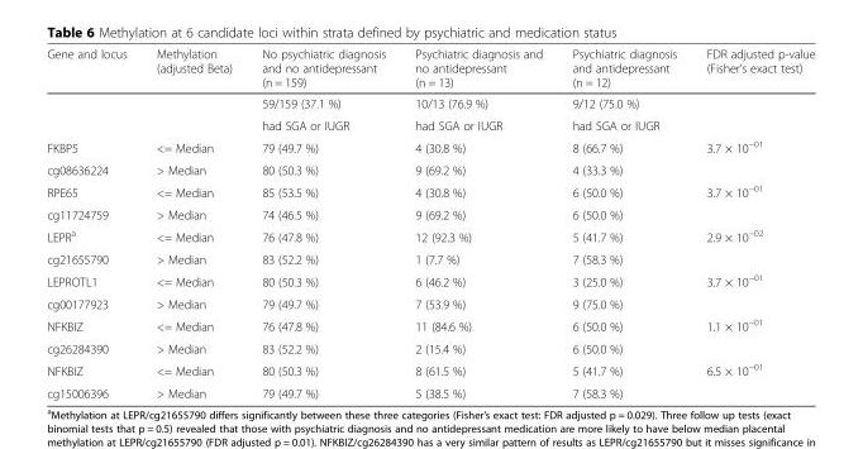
<table><thead><tr><td>Gene and locus</td><td>Methylation (adjusted Beta)</td><td>No psychiatric diagnosis and no antidepressant (n = 159)</td><td>Psychiatric diagnosis and no antidepressant (n = 13)</td><td>Psychiatric diagnosis and antidepressant (n = 12)</td><td>FDR adjusted p-value (Fisher’s exact test)</td></tr></thead><tbody><tr><td rowspan="2"></td><td rowspan="2"></td><td>59/159 (37.1 %)</td><td>10/13 (76.9 %)</td><td>9/12 (75.0 %)</td><td rowspan="2"></td></tr><tr><td>had SGA or IUGR</td><td>had SGA or IUGR</td><td>had SGA or IUGR</td></tr><tr><td>FKBP5</td><td>&lt;= Median</td><td>79 (49.7 %)</td><td>4 (30.8 %)</td><td>8 (66.7 %)</td><td rowspan="2">3.7 × 10<sup>−01</sup></td></tr><tr><td>cg08636224</td><td>&gt; Median</td><td>80 (50.3 %)</td><td>9 (69.2 %)</td><td>4 (33.3 %)</td></tr><tr><td>RPE65</td><td>&lt;= Median</td><td>85 (53.5 %)</td><td>4 (30.8 %)</td><td>6 (50.0 %)</td><td rowspan="2">3.7 × 10<sup>−01</sup></td></tr><tr><td>cg11724759</td><td>&gt; Median</td><td>74 (46.5 %)</td><td>9 (69.2 %)</td><td>6 (50.0 %)</td></tr><tr><td>LEPR<sup>a</sup></td><td>&lt;= Median</td><td>76 (47.8 %)</td><td>12 (92.3 %)</td><td>5 (41.7 %)</td><td rowspan="2">2.9 × 10<sup>−02</sup></td></tr><tr><td>cg21655790</td><td>&gt; Median</td><td>83 (52.2 %)</td><td>1 (7.7 %)</td><td>7 (58.3 %)</td></tr><tr><td>LEPROTL1</td><td>&lt;= Median</td><td>80 (50.3 %)</td><td>6 (46.2 %)</td><td>3 (25.0 %)</td><td rowspan="2">3.7 × 10<sup>−01</sup></td></tr><tr><td>cg00177923</td><td>&gt; Median</td><td>79 (49.7 %)</td><td>7 (53.9 %)</td><td>9 (75.0 %)</td></tr><tr><td>NFKBIZ</td><td>&lt;= Median</td><td>76 (47.8 %)</td><td>11 (84.6 %)</td><td>6 (50.0 %)</td><td rowspan="2">1.1 × 10<sup>−01</sup></td></tr><tr><td>cg26284390</td><td>&gt; Median</td><td>83 (52.2 %)</td><td>2 (15.4 %)</td><td>6 (50.0 %)</td></tr><tr><td>NFKBIZ</td><td>&lt;= Median</td><td>80 (50.3 %)</td><td>8 (61.5 %)</td><td>5 (41.7 %)</td><td rowspan="2">6.5 × 10<sup>−01</sup></td></tr><tr><td>cg15006396</td><td>&gt; Median</td><td>79 (49.7 %)</td><td>5 (38.5 %)</td><td>7 (58.3 %)</td></tr></tbody></table>